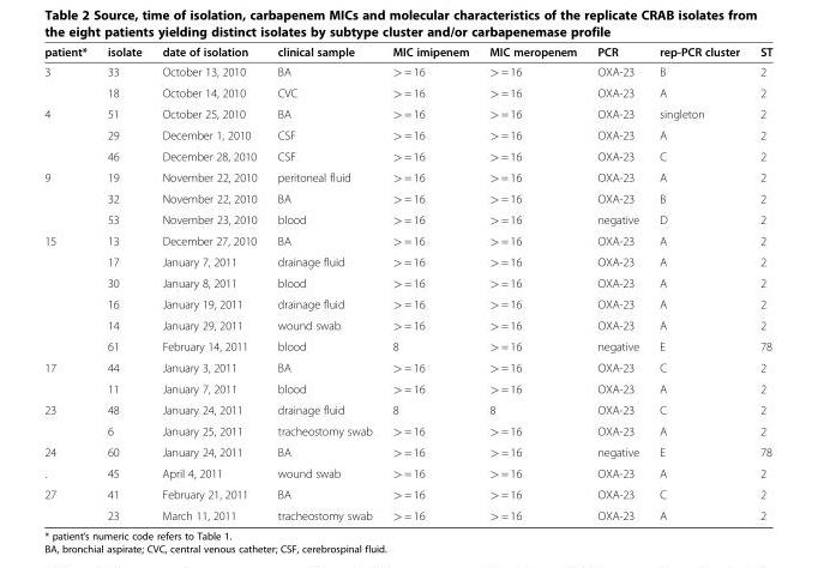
<table><thead><tr><td>patient*</td><td>isolate</td><td>date of isolation</td><td>clinical sample</td><td>MIC imipenem</td><td>MIC meropenem</td><td>PCR</td><td>rep-PCR cluster</td><td>ST</td></tr></thead><tbody><tr><td rowspan="2">3</td><td>33</td><td>October 13, 2010</td><td>BA</td><td>&gt; = 16</td><td>&gt; = 16</td><td>OXA-23</td><td>B</td><td>2</td></tr><tr><td>18</td><td>October 14, 2010</td><td>CVC</td><td>&gt; = 16</td><td>&gt; = 16</td><td>OXA-23</td><td>A</td><td>2</td></tr><tr><td rowspan="3">4</td><td>51</td><td>October 25, 2010</td><td>BA</td><td>&gt; = 16</td><td>&gt; = 16</td><td>OXA-23</td><td>singleton</td><td>2</td></tr><tr><td>29</td><td>December 1, 2010</td><td>CSF</td><td>&gt; = 16</td><td>&gt; = 16</td><td>OXA-23</td><td>A</td><td>2</td></tr><tr><td>46</td><td>December 28, 2010</td><td>CSF</td><td>&gt; = 16</td><td>&gt; = 16</td><td>OXA-23</td><td>C</td><td>2</td></tr><tr><td rowspan="3">9</td><td>19</td><td>November 22, 2010</td><td>peritoneal fluid</td><td>&gt; = 16</td><td>&gt; = 16</td><td>OXA-23</td><td>A</td><td>2</td></tr><tr><td>32</td><td>November 22, 2010</td><td>BA</td><td>&gt; = 16</td><td>&gt; = 16</td><td>OXA-23</td><td>B</td><td>2</td></tr><tr><td>53</td><td>November 23, 2010</td><td>blood</td><td>&gt; = 16</td><td>&gt; = 16</td><td>negative</td><td>D</td><td>2</td></tr><tr><td rowspan="6">15</td><td>13</td><td>December 27, 2010</td><td>BA</td><td>&gt; = 16</td><td>&gt; = 16</td><td>OXA-23</td><td>A</td><td>2</td></tr><tr><td>17</td><td>January 7, 2011</td><td>drainage fluid</td><td>&gt; = 16</td><td>&gt; = 16</td><td>OXA-23</td><td>A</td><td>2</td></tr><tr><td>30</td><td>January 8, 2011</td><td>blood</td><td>&gt; = 16</td><td>&gt; = 16</td><td>OXA-23</td><td>A</td><td>2</td></tr><tr><td>16</td><td>January 19, 2011</td><td>drainage fluid</td><td>&gt; = 16</td><td>&gt; = 16</td><td>OXA-23</td><td>A</td><td>2</td></tr><tr><td>14</td><td>January 29, 2011</td><td>wound swab</td><td>&gt; = 16</td><td>&gt; = 16</td><td>OXA-23</td><td>A</td><td>2</td></tr><tr><td>61</td><td>February 14, 2011</td><td>blood</td><td>8</td><td>&gt; = 16</td><td>negative</td><td>E</td><td>78</td></tr><tr><td rowspan="2">17</td><td>44</td><td>January 3, 2011</td><td>BA</td><td>&gt; = 16</td><td>&gt; = 16</td><td>OXA-23</td><td>C</td><td>2</td></tr><tr><td>11</td><td>January 7, 2011</td><td>blood</td><td>&gt; = 16</td><td>&gt; = 16</td><td>OXA-23</td><td>A</td><td>2</td></tr><tr><td rowspan="2">23</td><td>48</td><td>January 24, 2011</td><td>drainage fluid</td><td>8</td><td>8</td><td>OXA-23</td><td>C</td><td>2</td></tr><tr><td>6</td><td>January 25, 2011</td><td>tracheostomy swab</td><td>&gt; = 16</td><td>&gt; = 16</td><td>OXA-23</td><td>A</td><td>2</td></tr><tr><td>24</td><td>60</td><td>January 24, 2011</td><td>BA</td><td>&gt; = 16</td><td>&gt; = 16</td><td>negative</td><td>E</td><td>78</td></tr><tr><td>.</td><td>45</td><td>April 4, 2011</td><td>wound swab</td><td>&gt; = 16</td><td>&gt; = 16</td><td>OXA-23</td><td>A</td><td>2</td></tr><tr><td rowspan="2">27</td><td>41</td><td>February 21, 2011</td><td>BA</td><td>&gt; = 16</td><td>&gt; = 16</td><td>OXA-23</td><td>C</td><td>2</td></tr><tr><td>23</td><td>March 11, 2011</td><td>tracheostomy swab</td><td>&gt; = 16</td><td>&gt; = 16</td><td>OXA-23</td><td>A</td><td>2</td></tr></tbody></table>